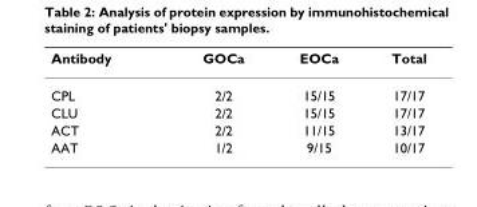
<table><thead><tr><td>Antibody</td><td>GOCa</td><td>EOCa</td><td>Total</td></tr></thead><tbody><tr><td>CPL</td><td>2/2</td><td>15/15</td><td>17/17</td></tr><tr><td>CLU</td><td>2/2</td><td>15/15</td><td>17/17</td></tr><tr><td>ACT</td><td>2/2</td><td>11/15</td><td>13/17</td></tr><tr><td>AAT</td><td>1/2</td><td>9/15</td><td>10/17</td></tr></tbody></table>